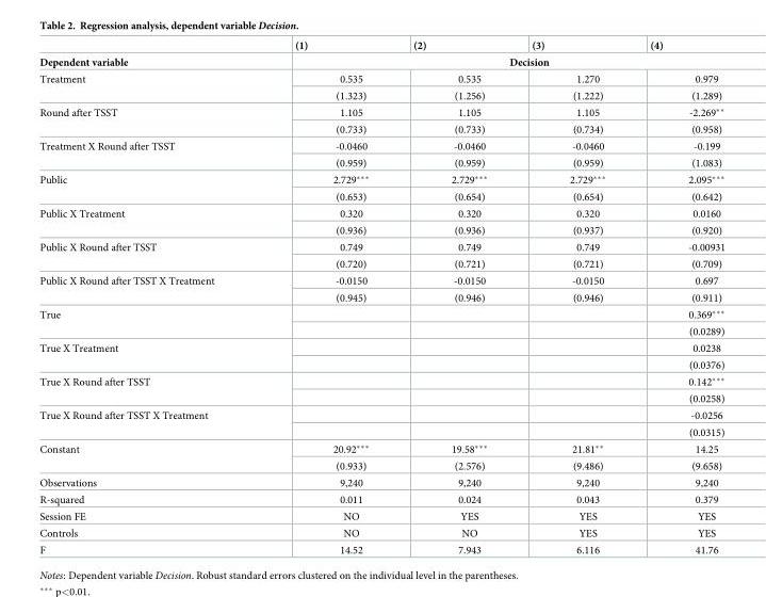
<table><thead><tr><td rowspan="2">Dependent variable</td><td>(1)</td><td>(2)</td><td>(3)</td><td>(4)</td></tr><tr><td colspan="4">Decision</td></tr></thead><tbody><tr><td rowspan="2">Treatment</td><td>0.535</td><td>0.535</td><td>1.270</td><td>0.979</td></tr><tr><td>(1.323)</td><td>(1.256)</td><td>(1.222)</td><td>(1.289)</td></tr><tr><td rowspan="2">Round after TSST</td><td>1.105</td><td>1.105</td><td>1.105</td><td>-2.269**</td></tr><tr><td>(0.733)</td><td>(0.733)</td><td>(0.734)</td><td>(0.958)</td></tr><tr><td rowspan="2">Treatment X Round after TSST</td><td>-0.0460</td><td>-0.0460</td><td>-0.0460</td><td>-0.199</td></tr><tr><td>(0.959)</td><td>(0.959)</td><td>(0.959)</td><td>(1.083)</td></tr><tr><td rowspan="2">Public</td><td>2.729***</td><td>2.729***</td><td>2.729***</td><td>2.095***</td></tr><tr><td>(0.653)</td><td>(0.654)</td><td>(0.654)</td><td>(0.642)</td></tr><tr><td rowspan="2">Public X Treatment</td><td>0.320</td><td>0.320</td><td>0.320</td><td>0.0160</td></tr><tr><td>(0.936)</td><td>(0.936)</td><td>(0.937)</td><td>(0.920)</td></tr><tr><td rowspan="2">Public X Round after TSST</td><td>0.749</td><td>0.749</td><td>0.749</td><td>-0.00931</td></tr><tr><td>(0.720)</td><td>(0.721)</td><td>(0.721)</td><td>(0.709)</td></tr><tr><td rowspan="2">Public X Round after TSST X Treatment</td><td>-0.0150</td><td>-0.0150</td><td>-0.0150</td><td>0.697</td></tr><tr><td>(0.945)</td><td>(0.946)</td><td>(0.946)</td><td>(0.911)</td></tr><tr><td rowspan="2">True</td><td></td><td></td><td></td><td>0.369***</td></tr><tr><td></td><td></td><td></td><td>(0.0289)</td></tr><tr><td rowspan="2">True X Treatment</td><td></td><td></td><td></td><td>0.0238</td></tr><tr><td></td><td></td><td></td><td>(0.0376)</td></tr><tr><td rowspan="2">True X Round after TSST</td><td></td><td></td><td></td><td>0.142***</td></tr><tr><td></td><td></td><td></td><td>(0.0258)</td></tr><tr><td rowspan="2">True X Round after TSST X Treatment</td><td></td><td></td><td></td><td>-0.0256</td></tr><tr><td></td><td></td><td></td><td>(0.0315)</td></tr><tr><td rowspan="2">Constant</td><td>20.92***</td><td>19.58***</td><td>21.81**</td><td>14.25</td></tr><tr><td>(0.933)</td><td>(2.576)</td><td>(9.486)</td><td>(9.658)</td></tr><tr><td>Observations</td><td>9,240</td><td>9,240</td><td>9,240</td><td>9,240</td></tr><tr><td>R-squared</td><td>0.011</td><td>0.024</td><td>0.043</td><td>0.379</td></tr><tr><td>Session FE</td><td>NO</td><td>YES</td><td>YES</td><td>YES</td></tr><tr><td>Controls</td><td>NO</td><td>NO</td><td>YES</td><td>YES</td></tr><tr><td>F</td><td>14.52</td><td>7.943</td><td>6.116</td><td>41.76</td></tr></tbody></table>